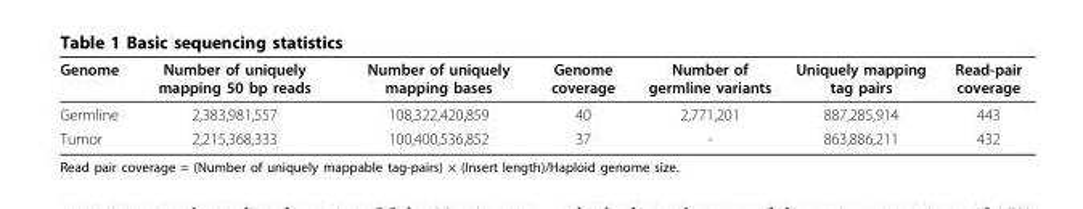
<table><thead><tr><td>Genome</td><td>Number of uniquely mapping 50 bp reads</td><td>Number of uniquely mapping bases</td><td>Genome coverage</td><td>Number of germline variants</td><td>Uniquely mapping tag pairs</td><td>Read-pair coverage</td></tr></thead><tbody><tr><td>Germline</td><td>2,383,981,557</td><td>108,322,420,859</td><td>40</td><td>2,771,201</td><td>887,285,914</td><td>443</td></tr><tr><td>Tumor</td><td>2,215,368,333</td><td>100,400,536,852</td><td>37</td><td>-</td><td>863,886,211</td><td>432</td></tr></tbody></table>